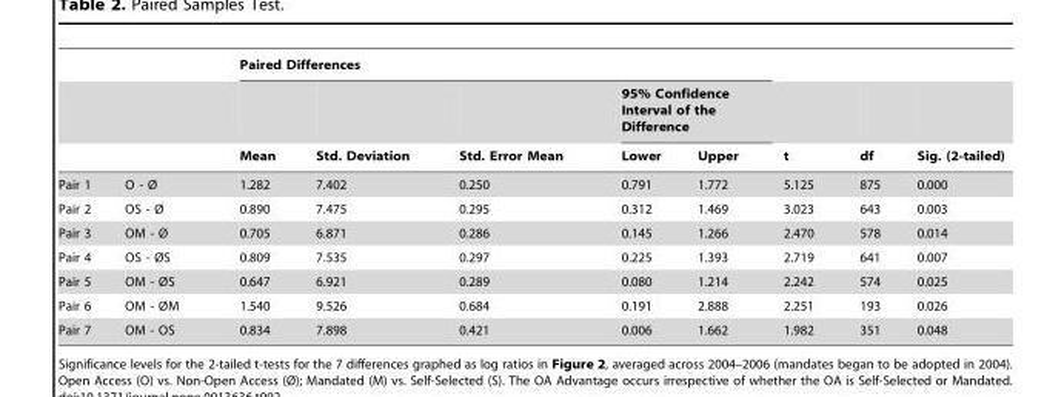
<table><thead><tr><td rowspan="3"></td><td rowspan="3"></td><td colspan="5">Paired Differences</td><td rowspan="3">t</td><td rowspan="3">df</td><td rowspan="3">Sig. (2-tailed)</td></tr><tr><td rowspan="2">Mean</td><td rowspan="2">Std. Deviation</td><td rowspan="2">Std. Error Mean</td><td colspan="2">95% Confidence Interval of the Difference</td></tr><tr><td>Lower</td><td>Upper</td></tr></thead><tbody><tr><td>Pair 1</td><td>O - Ø</td><td>1.282</td><td>7.402</td><td>0.250</td><td>0.791</td><td>1.772</td><td>5.125</td><td>875</td><td>0.000</td></tr><tr><td>Pair 2</td><td>OS - Ø</td><td>0.890</td><td>7.475</td><td>0.295</td><td>0.312</td><td>1.469</td><td>3.023</td><td>643</td><td>0.003</td></tr><tr><td>Pair 3</td><td>OM - Ø</td><td>0.705</td><td>6.871</td><td>0.286</td><td>0.145</td><td>1.266</td><td>2.470</td><td>578</td><td>0.014</td></tr><tr><td>Pair 4</td><td>OS - ØS</td><td>0.809</td><td>7.535</td><td>0.297</td><td>0.225</td><td>1.393</td><td>2.719</td><td>641</td><td>0.007</td></tr><tr><td>Pair 5</td><td>OM - ØS</td><td>0.647</td><td>6.921</td><td>0.289</td><td>0.080</td><td>1.214</td><td>2.242</td><td>574</td><td>0.025</td></tr><tr><td>Pair 6</td><td>OM - ØM</td><td>1.540</td><td>9.526</td><td>0.684</td><td>0.191</td><td>2.888</td><td>2.251</td><td>193</td><td>0.026</td></tr><tr><td>Pair 7</td><td>OM - OS</td><td>0.834</td><td>7.898</td><td>0.421</td><td>0.006</td><td>1.662</td><td>1.982</td><td>351</td><td>0.048</td></tr></tbody></table>